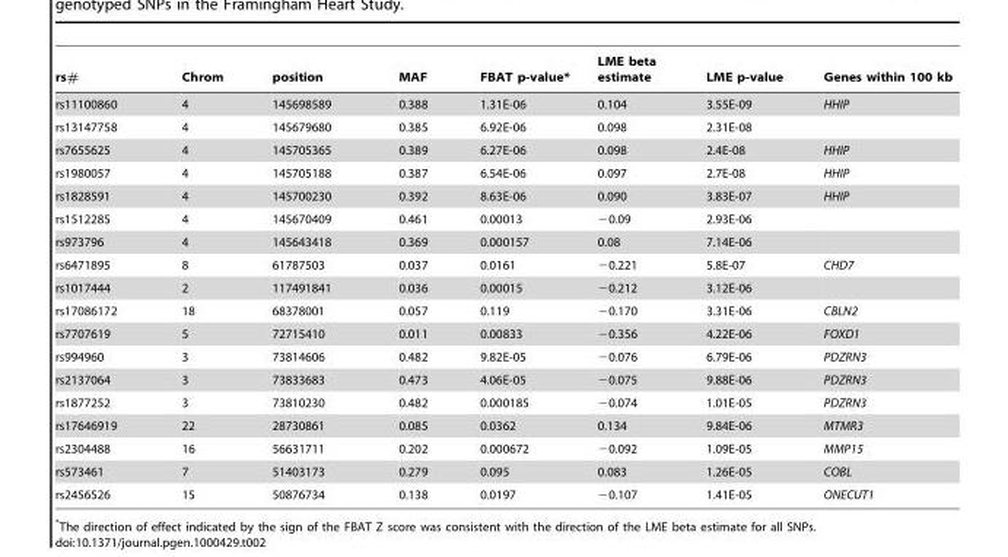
<table><thead><tr><td>rs#</td><td>Chrom</td><td>position</td><td>MAF</td><td>FBAT p-value*</td><td>LME beta estimate</td><td>LME p-value</td><td>Genes within 100 kb</td></tr></thead><tbody><tr><td>rs11100860</td><td>4</td><td>145698589</td><td>0.388</td><td>1.31E-06</td><td>0.104</td><td>3.55E-09</td><td>HHIP</td></tr><tr><td>rs13147758</td><td>4</td><td>145679680</td><td>0.385</td><td>6.92E-06</td><td>0.098</td><td>2.31E-08</td><td></td></tr><tr><td>rs7655625</td><td>4</td><td>145705365</td><td>0.389</td><td>6.27E-06</td><td>0.098</td><td>2.4E-08</td><td>HHIP</td></tr><tr><td>rs1980057</td><td>4</td><td>145705188</td><td>0.387</td><td>6.54E-06</td><td>0.097</td><td>2.7E-08</td><td>HHIP</td></tr><tr><td>rs1828591</td><td>4</td><td>145700230</td><td>0.392</td><td>8.63E-06</td><td>0.090</td><td>3.83E-07</td><td>HHIP</td></tr><tr><td>rs1512285</td><td>4</td><td>145670409</td><td>0.461</td><td>0.00013</td><td>−0.09</td><td>2.93E-06</td><td></td></tr><tr><td>rs973796</td><td>4</td><td>145643418</td><td>0.369</td><td>0.000157</td><td>0.08</td><td>7.14E-06</td><td></td></tr><tr><td>rs6471895</td><td>8</td><td>61787503</td><td>0.037</td><td>0.0161</td><td>−0.221</td><td>5.8E-07</td><td>CHD7</td></tr><tr><td>rs1017444</td><td>2</td><td>117491841</td><td>0.036</td><td>0.00015</td><td>−0.212</td><td>3.12E-06</td><td></td></tr><tr><td>rs17086172</td><td>18</td><td>68378001</td><td>0.057</td><td>0.119</td><td>−0.170</td><td>3.31E-06</td><td>CBLN2</td></tr><tr><td>rs7707619</td><td>5</td><td>72715410</td><td>0.011</td><td>0.00833</td><td>−0.356</td><td>4.22E-06</td><td>FOXD1</td></tr><tr><td>rs994960</td><td>3</td><td>73814606</td><td>0.482</td><td>9.82E-05</td><td>−0.076</td><td>6.79E-06</td><td>PDZRN3</td></tr><tr><td>rs2137064</td><td>3</td><td>73833683</td><td>0.473</td><td>4.06E-05</td><td>−0.075</td><td>9.88E-06</td><td>PDZRN3</td></tr><tr><td>rs1877252</td><td>3</td><td>73810230</td><td>0.482</td><td>0.000185</td><td>−0.074</td><td>1.01E-05</td><td>PDZRN3</td></tr><tr><td>rs17646919</td><td>22</td><td>28730861</td><td>0.085</td><td>0.0362</td><td>0.134</td><td>9.84E-06</td><td>MTMR3</td></tr><tr><td>rs2304488</td><td>16</td><td>56631711</td><td>0.202</td><td>0.000672</td><td>−0.092</td><td>1.09E-05</td><td>MMP15</td></tr><tr><td>rs573461</td><td>7</td><td>51403173</td><td>0.279</td><td>0.095</td><td>0.083</td><td>1.26E-05</td><td>COBL</td></tr><tr><td>rs2456526</td><td>15</td><td>50876734</td><td>0.138</td><td>0.0197</td><td>−0.107</td><td>1.41E-05</td><td>ONECUT1</td></tr></tbody></table>